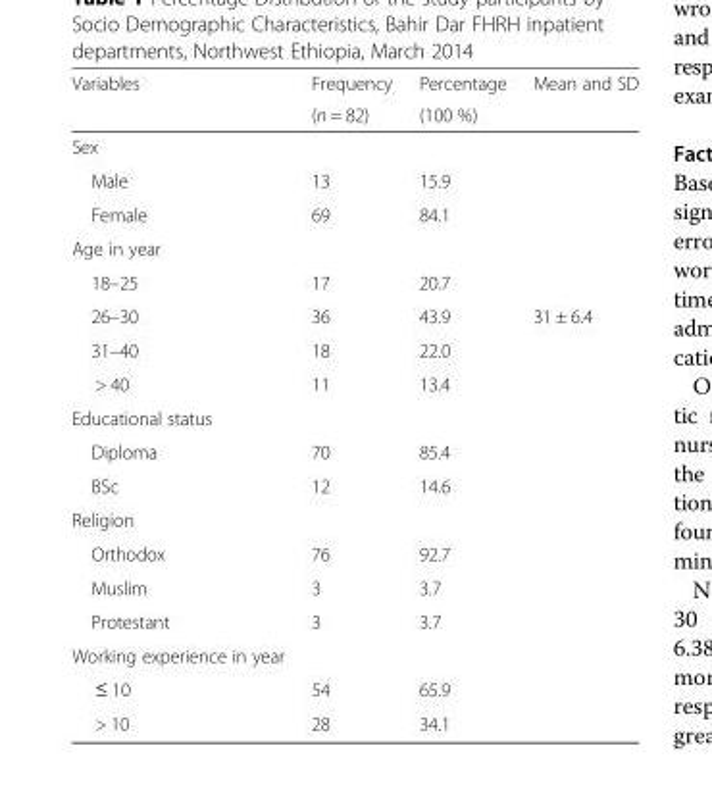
<table><thead><tr><td rowspan="2">Variables</td><td rowspan="2">Frequency (n = 82)</td><td rowspan="2">Percentage (100 %)</td><td rowspan="2">Mean and SD</td></tr><tr></tr></thead><tbody><tr><td colspan="4">Sex</td></tr><tr><td>Male</td><td>13</td><td>15.9</td><td></td></tr><tr><td>Female</td><td>69</td><td>84.1</td><td></td></tr><tr><td colspan="4">Age in year</td></tr><tr><td>18–25</td><td>17</td><td>20.7</td><td></td></tr><tr><td>26–30</td><td>36</td><td>43.9</td><td>31 ± 6.4</td></tr><tr><td>31–40</td><td>18</td><td>22.0</td><td></td></tr><tr><td>&gt; 40</td><td>11</td><td>13.4</td><td></td></tr><tr><td colspan="4">Educational status</td></tr><tr><td>Diploma</td><td>70</td><td>85.4</td><td></td></tr><tr><td>BSc</td><td>12</td><td>14.6</td><td></td></tr><tr><td colspan="4">Religion</td></tr><tr><td>Orthodox</td><td>76</td><td>92.7</td><td></td></tr><tr><td>Muslim</td><td>3</td><td>3.7</td><td></td></tr><tr><td>Protestant</td><td>3</td><td>3.7</td><td></td></tr><tr><td colspan="4">Working experience in year</td></tr><tr><td>≤ 10</td><td>54</td><td>65.9</td><td></td></tr><tr><td>&gt; 10</td><td>28</td><td>34.1</td><td></td></tr></tbody></table>